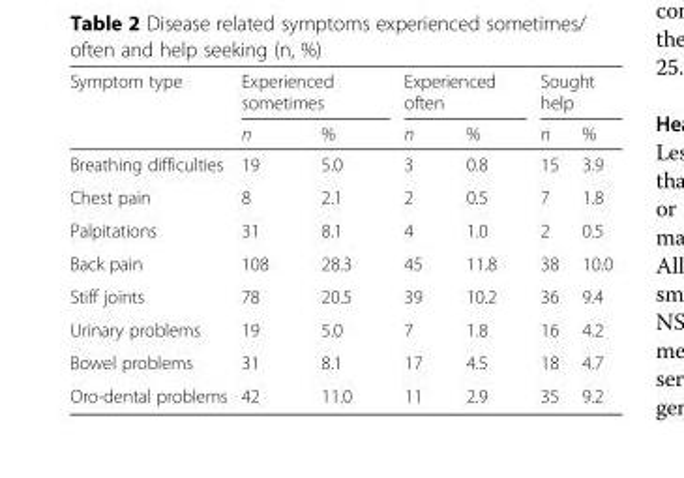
<table><thead><tr><td rowspan="2">Symptom type</td><td colspan="2">Experienced sometimes</td><td colspan="2">Experienced often</td><td colspan="2">Sought help</td></tr><tr><td>n</td><td>%</td><td>n</td><td>%</td><td>n</td><td>%</td></tr></thead><tbody><tr><td>Breathing difficulties</td><td>19</td><td>5.0</td><td>3</td><td>0.8</td><td>15</td><td>3.9</td></tr><tr><td>Chest pain</td><td>8</td><td>2.1</td><td>2</td><td>0.5</td><td>7</td><td>1.8</td></tr><tr><td>Palpitations</td><td>31</td><td>8.1</td><td>4</td><td>1.0</td><td>2</td><td>0.5</td></tr><tr><td>Back pain</td><td>108</td><td>28.3</td><td>45</td><td>11.8</td><td>38</td><td>10.0</td></tr><tr><td>Stiff joints</td><td>78</td><td>20.5</td><td>39</td><td>10.2</td><td>36</td><td>9.4</td></tr><tr><td>Urinary problems</td><td>19</td><td>5.0</td><td>7</td><td>1.8</td><td>16</td><td>4.2</td></tr><tr><td>Bowel problems</td><td>31</td><td>8.1</td><td>17</td><td>4.5</td><td>18</td><td>4.7</td></tr><tr><td>Oro-dental problems</td><td>42</td><td>11.0</td><td>11</td><td>2.9</td><td>35</td><td>9.2</td></tr></tbody></table>